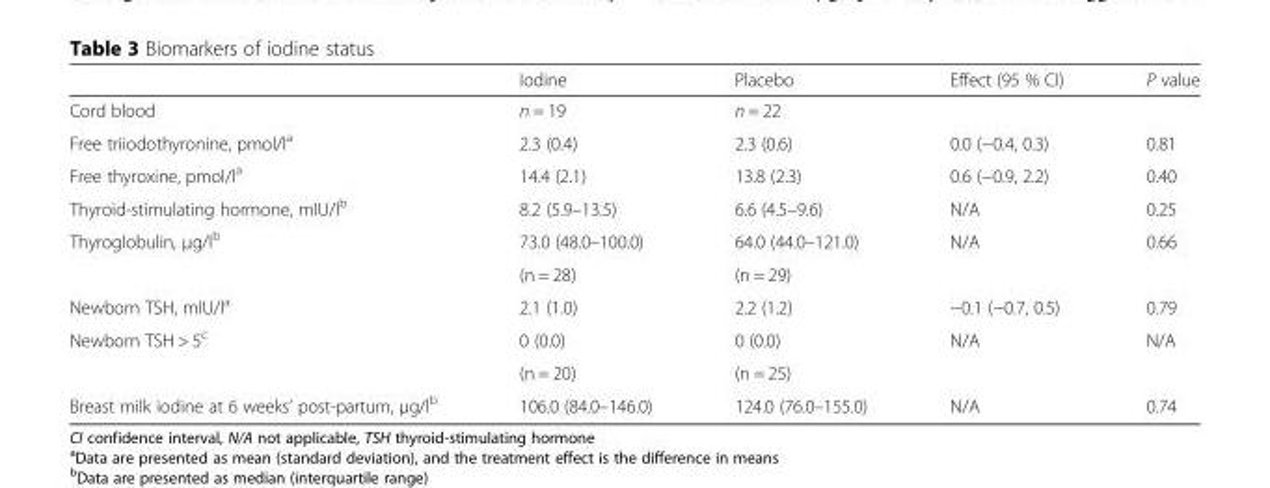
<table><thead><tr><td></td><td>Iodine</td><td>Placebo</td><td>Effect (95 % CI)</td><td>P value</td></tr></thead><tbody><tr><td>Cord blood</td><td>n = 19</td><td>n = 22</td><td></td><td></td></tr><tr><td>Free triiodothyronine, pmol/l<sup>a</sup></td><td>2.3 (0.4)</td><td>2.3 (0.6)</td><td>0.0 (−0.4, 0.3)</td><td>0.81</td></tr><tr><td>Free thyroxine, pmol/l<sup>a</sup></td><td>14.4 (2.1)</td><td>13.8 (2.3)</td><td>0.6 (−0.9, 2.2)</td><td>0.40</td></tr><tr><td>Thyroid-stimulating hormone, mIU/l<sup>b</sup></td><td>8.2 (5.9–13.5)</td><td>6.6 (4.5–9.6)</td><td>N/A</td><td>0.25</td></tr><tr><td rowspan="2">Thyroglobulin, μg/l<sup>b</sup></td><td>73.0 (48.0–100.0)</td><td>64.0 (44.0–121.0)</td><td>N/A</td><td>0.66</td></tr><tr><td>(n = 28)</td><td>(n = 29)</td><td></td><td></td></tr><tr><td>Newborn TSH, mIU/l<sup>a</sup></td><td>2.1 (1.0)</td><td>2.2 (1.2)</td><td>−0.1 (−0.7, 0.5)</td><td>0.79</td></tr><tr><td rowspan="2">Newborn TSH &gt; 5<sup>c</sup></td><td>0 (0.0)</td><td>0 (0.0)</td><td>N/A</td><td>N/A</td></tr><tr><td>(n = 20)</td><td>(n = 25)</td><td></td><td></td></tr><tr><td>Breast milk iodine at 6 weeks’ post-partum, μg/l<sup>b</sup></td><td>106.0 (84.0–146.0)</td><td>124.0 (76.0–155.0)</td><td>N/A</td><td>0.74</td></tr></tbody></table>